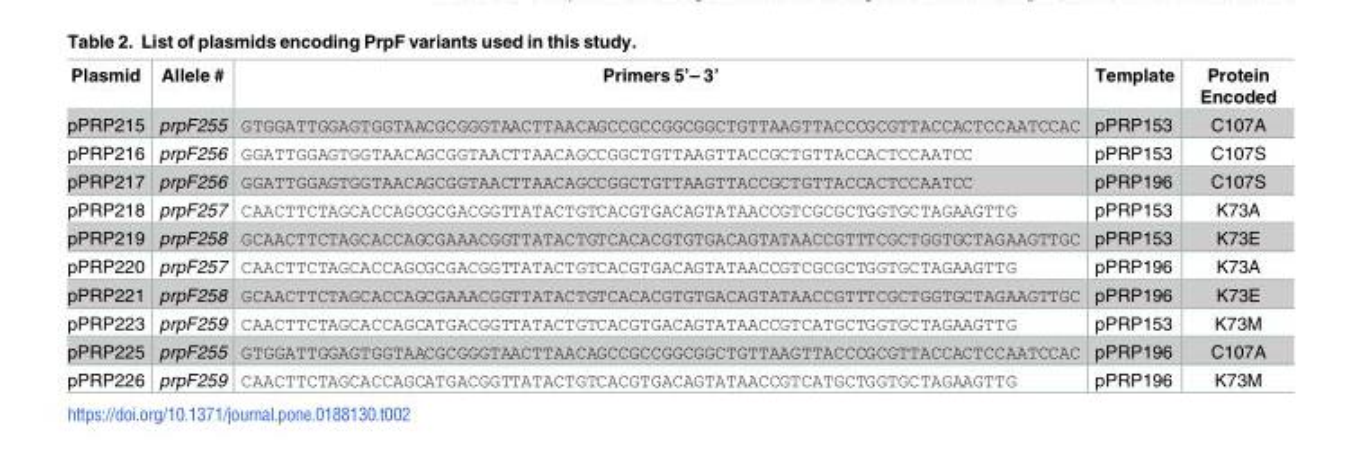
<table><thead><tr><td>Plasmid</td><td>Allele #</td><td>Primers 5’– 3’</td><td>Template</td><td>Protein Encoded</td></tr></thead><tbody><tr><td>pPRP215</td><td>prpF255</td><td>GTGGATTGGAGTGGTAACGCGGGTAACTTAACAGCCGCCGGCGGCTGTTAAGTTACCCGCGTTACCACTCCAATCCAC</td><td>pPRP153</td><td>C107A</td></tr><tr><td>pPRP216</td><td>prpF256</td><td>GGATTGGAGTGGTAACAGCGGTAACTTAACAGCCGGCTGTTAAGTTACCGCTGTTACCACTCCAATCC</td><td>pPRP153</td><td>C107S</td></tr><tr><td>pPRP217</td><td>prpF256</td><td>GGATTGGAGTGGTAACAGCGGTAACTTAACAGCCGGCTGTTAAGTTACCGCTGTTACCACTCCAATCC</td><td>pPRP196</td><td>C107S</td></tr><tr><td>pPRP218</td><td>prpF257</td><td>CAACTTCTAGCACCAGCGCGACGGTTATACTGTCACGTGACAGTATAACCGTCGCGCTGGTGCTAGAAGTTG</td><td>pPRP153</td><td>K73A</td></tr><tr><td>pPRP219</td><td>prpF258</td><td>GCAACTTCTAGCACCAGCGAAACGGTTATACTGTCACACGTGTGACAGTATAACCGTTTCGCTGGTGCTAGAAGTTGC</td><td>pPRP153</td><td>K73E</td></tr><tr><td>pPRP220</td><td>prpF257</td><td>CAACTTCTAGCACCAGCGCGACGGTTATACTGTCACGTGACAGTATAACCGTCGCGCTGGTGCTAGAAGTTG</td><td>pPRP196</td><td>K73A</td></tr><tr><td>pPRP221</td><td>prpF258</td><td>GCAACTTCTAGCACCAGCGAAACGGTTATACTGTCACACGTGTGACAGTATAACCGTTTCGCTGGTGCTAGAAGTTGC</td><td>pPRP196</td><td>K73E</td></tr><tr><td>pPRP223</td><td>prpF259</td><td>CAACTTCTAGCACCAGCATGACGGTTATACTGTCACGTGACAGTATAACCGTCATGCTGGTGCTAGAAGTTG</td><td>pPRP153</td><td>K73M</td></tr><tr><td>pPRP225</td><td>prpF255</td><td>GTGGATTGGAGTGGTAACGCGGGTAACTTAACAGCCGCCGGCGGCTGTTAAGTTACCCGCGTTACCACTCCAATCCAC</td><td>pPRP196</td><td>C107A</td></tr><tr><td>pPRP226</td><td>prpF259</td><td>CAACTTCTAGCACCAGCATGACGGTTATACTGTCACGTGACAGTATAACCGTCATGCTGGTGCTAGAAGTTG</td><td>pPRP196</td><td>K73M</td></tr></tbody></table>